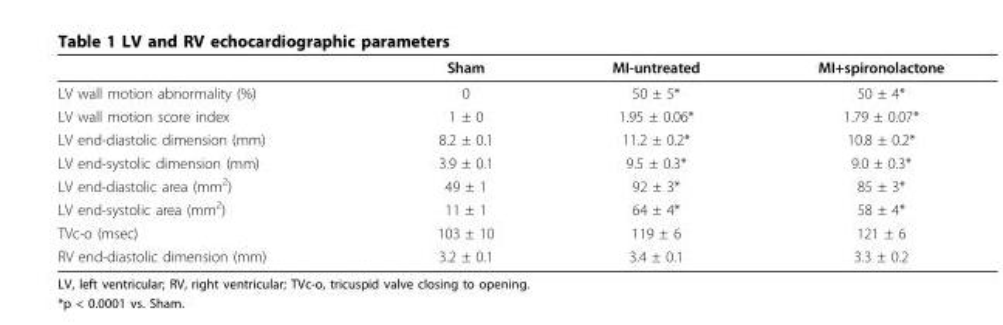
<table><thead><tr><td></td><td>Sham</td><td>MI-untreated</td><td>MI+spironolactone</td></tr></thead><tbody><tr><td>LV wall motion abnormality (%)</td><td>0</td><td>50 ± 5*</td><td>50 ± 4*</td></tr><tr><td>LV wall motion score index</td><td>1 ± 0</td><td>1.95 ± 0.06*</td><td>1.79 ± 0.07*</td></tr><tr><td>LV end-diastolic dimension (mm)</td><td>8.2 ± 0.1</td><td>11.2 ± 0.2*</td><td>10.8 ± 0.2*</td></tr><tr><td>LV end-systolic dimension (mm)</td><td>3.9 ± 0.1</td><td>9.5 ± 0.3*</td><td>9.0 ± 0.3*</td></tr><tr><td>LV end-diastolic area (mm<sup>2</sup>)</td><td>49 ± 1</td><td>92 ± 3*</td><td>85 ± 3*</td></tr><tr><td>LV end-systolic area (mm<sup>2</sup>)</td><td>11 ± 1</td><td>64 ± 4*</td><td>58 ± 4*</td></tr><tr><td>TVc-o (msec)</td><td>103 ± 10</td><td>119 ± 6</td><td>121 ± 6</td></tr><tr><td>RV end-diastolic dimension (mm)</td><td>3.2 ± 0.1</td><td>3.4 ± 0.1</td><td>3.3 ± 0.2</td></tr></tbody></table>